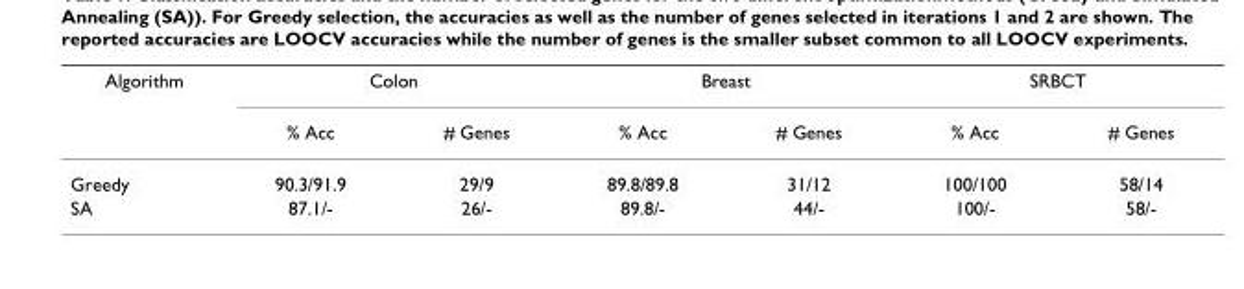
<table><thead><tr><td rowspan="2">Algorithm</td><td colspan="2">Colon</td><td colspan="2">Breast</td><td colspan="2">SRBCT</td></tr><tr><td>% Acc</td><td># Genes</td><td>% Acc</td><td># Genes</td><td>% Acc</td><td># Genes</td></tr></thead><tbody><tr><td>Greedy</td><td>90.3/91.9</td><td>29/9</td><td>89.8/89.8</td><td>31/12</td><td>100/100</td><td>58/14</td></tr><tr><td>SA</td><td>87.1/-</td><td>26/-</td><td>89.8/-</td><td>44/-</td><td>100/-</td><td>58/-</td></tr></tbody></table>